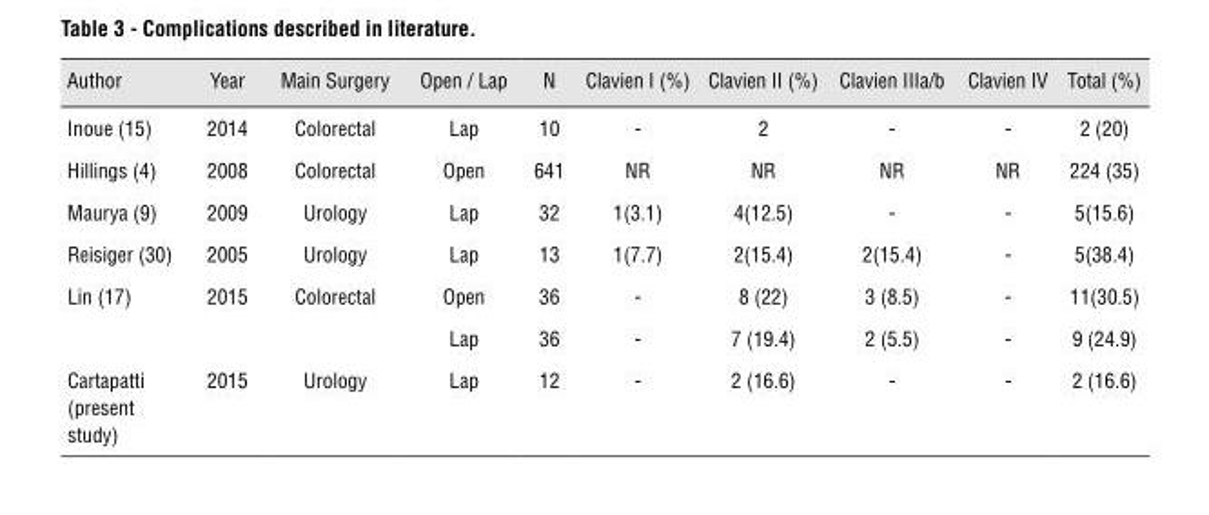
<table><thead><tr><td>Author</td><td>Year</td><td>Main Surgery</td><td>Open / Lap</td><td>N</td><td>Clavien I (%)</td><td>Clavien II (%)</td><td>Clavien IIIa/b</td><td>Clavien IV</td><td>Total (%)</td></tr></thead><tbody><tr><td>Inoue (15)</td><td>2014</td><td>Colorectal</td><td>Lap</td><td>10</td><td>-</td><td>2</td><td>-</td><td>-</td><td>2 (20)</td></tr><tr><td>Hillings (4)</td><td>2008</td><td>Colorectal</td><td>Open</td><td>641</td><td>NR</td><td>NR</td><td>NR</td><td>NR</td><td>224 (35)</td></tr><tr><td>Maurya (9)</td><td>2009</td><td>Urology</td><td>Lap</td><td>32</td><td>1(3.1)</td><td>4(12.5)</td><td>-</td><td>-</td><td>5(15.6)</td></tr><tr><td>Reisiger (30)</td><td>2005</td><td>Urology</td><td>Lap</td><td>13</td><td>1(7.7)</td><td>2(15.4)</td><td>2(15.4)</td><td>-</td><td>5(38.4)</td></tr><tr><td rowspan="2">Lin (17)</td><td>2015</td><td>Colorectal</td><td>Open</td><td>36</td><td>-</td><td>8 (22)</td><td>3 (8.5)</td><td>-</td><td>11(30.5)</td></tr><tr><td></td><td></td><td>Lap</td><td>36</td><td>-</td><td>7 (19.4)</td><td>2 (5.5)</td><td>-</td><td>9 (24.9)</td></tr><tr><td>Cartapatti (present study)</td><td>2015</td><td>Urology</td><td>Lap</td><td>12</td><td>-</td><td>2 (16.6)</td><td>-</td><td>-</td><td>2 (16.6)</td></tr></tbody></table>